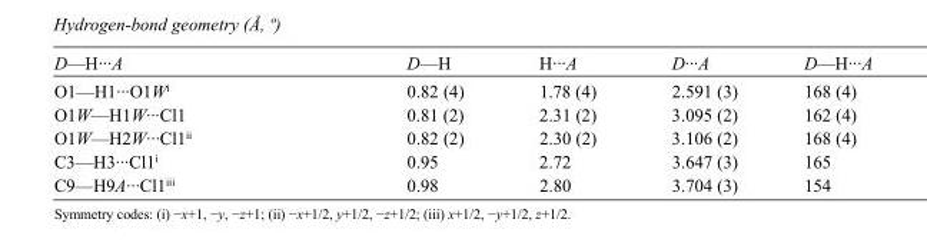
<table><tbody><tr><td>D—H···A</td><td>D—H</td><td>H···A</td><td>D···A</td><td>D—H···A</td></tr><tr><td>O1—H1···O1W<sup>i</sup></td><td>0.82 (4)</td><td>1.78 (4)</td><td>2.591 (3)</td><td>168 (4)</td></tr><tr><td>O1W—H1W···Cl1</td><td>0.81 (2)</td><td>2.31 (2)</td><td>3.095 (2)</td><td>162 (4)</td></tr><tr><td>O1W—H2W···Cl1<sup>ii</sup></td><td>0.82 (2)</td><td>2.30 (2)</td><td>3.106 (2)</td><td>168 (4)</td></tr><tr><td>C3—H3···Cl1<sup>i</sup></td><td>0.95</td><td>2.72</td><td>3.647 (3)</td><td>165</td></tr><tr><td>C9—H9A···Cl1<sup>iii</sup></td><td>0.98</td><td>2.80</td><td>3.704 (3)</td><td>154</td></tr></tbody></table>